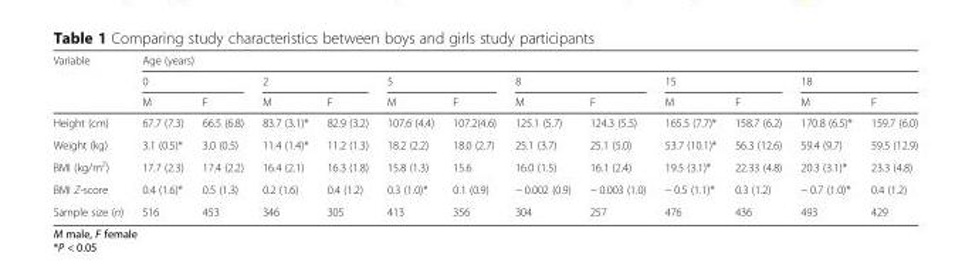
<table><thead><tr><td rowspan="3">Variable</td><td colspan="12">Age (years)</td></tr><tr><td colspan="2">0</td><td colspan="2">2</td><td colspan="2">5</td><td colspan="2">8</td><td colspan="2">15</td><td colspan="2">18</td></tr><tr><td>M</td><td>F</td><td>M</td><td>F</td><td>M</td><td>F</td><td>M</td><td>F</td><td>M</td><td>F</td><td>M</td><td>F</td></tr></thead><tbody><tr><td>Height (cm)</td><td>67.7 (7.3)</td><td>66.5 (6.8)</td><td>83.7 (3.1)*</td><td>82.9 (3.2)</td><td>107.6 (4.4)</td><td>107.2(4.6)</td><td>125.1 (5.7)</td><td>124.3 (5.5)</td><td>165.5 (7.7)*</td><td>158.7 (6.2)</td><td>170.8 (6.5)*</td><td>159.7 (6.0)</td></tr><tr><td>Weight (kg)</td><td>3.1 (0.5)*</td><td>3.0 (0.5)</td><td>11.4 (1.4)*</td><td>11.2 (1.3)</td><td>18.2 (2.2)</td><td>18.0 (2.7)</td><td>25.1 (3.7)</td><td>25.1 (5.0)</td><td>53.7 (10.1)*</td><td>56.3 (12.6)</td><td>59.4 (9.7)</td><td>59.5 (12.9)</td></tr><tr><td>BMI (kg/m<sup>2</sup>)</td><td>17.7 (2.3)</td><td>17.4 (2.2)</td><td>16.4 (2.1)</td><td>16.3 (1.8)</td><td>15.8 (1.3)</td><td>15.6</td><td>16.0 (1.5)</td><td>16.1 (2.4)</td><td>19.5 (3.1)*</td><td>22.33 (4.8)</td><td>20.3 (3.1)*</td><td>23.3 (4.8)</td></tr><tr><td>BMI Z-score</td><td>0.4 (1.6)*</td><td>0.5 (1.3)</td><td>0.2 (1.6)</td><td>0.4 (1.2)</td><td>0.3 (1.0)*</td><td>0.1 (0.9)</td><td>− 0.002 (0.9)</td><td>− 0.003 (1.0)</td><td>− 0.5 (1.1)*</td><td>0.3 (1.2)</td><td>− 0.7 (1.0)*</td><td>0.4 (1.2)</td></tr><tr><td>Sample size (n)</td><td>516</td><td>453</td><td>346</td><td>305</td><td>413</td><td>356</td><td>304</td><td>257</td><td>476</td><td>436</td><td>493</td><td>429</td></tr></tbody></table>